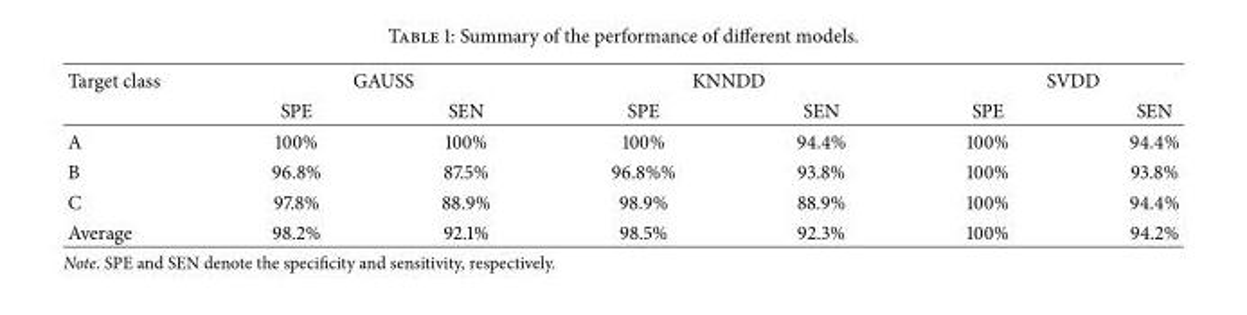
<table><thead><tr><td rowspan="2">Target class</td><td colspan="2">GAUSS</td><td colspan="2">KNNDD</td><td colspan="2">SVDD</td></tr><tr><td>SPE</td><td>SEN</td><td>SPE</td><td>SEN</td><td>SPE</td><td>SEN</td></tr></thead><tbody><tr><td>A</td><td>100%</td><td>100%</td><td>100%</td><td>94.4%</td><td>100%</td><td>94.4%</td></tr><tr><td>B</td><td>96.8%</td><td>87.5%</td><td>96.8%%</td><td>93.8%</td><td>100%</td><td>93.8%</td></tr><tr><td>C</td><td>97.8%</td><td>88.9%</td><td>98.9%</td><td>88.9%</td><td>100%</td><td>94.4%</td></tr><tr><td>Average</td><td>98.2%</td><td>92.1%</td><td>98.5%</td><td>92.3%</td><td>100%</td><td>94.2%</td></tr></tbody></table>